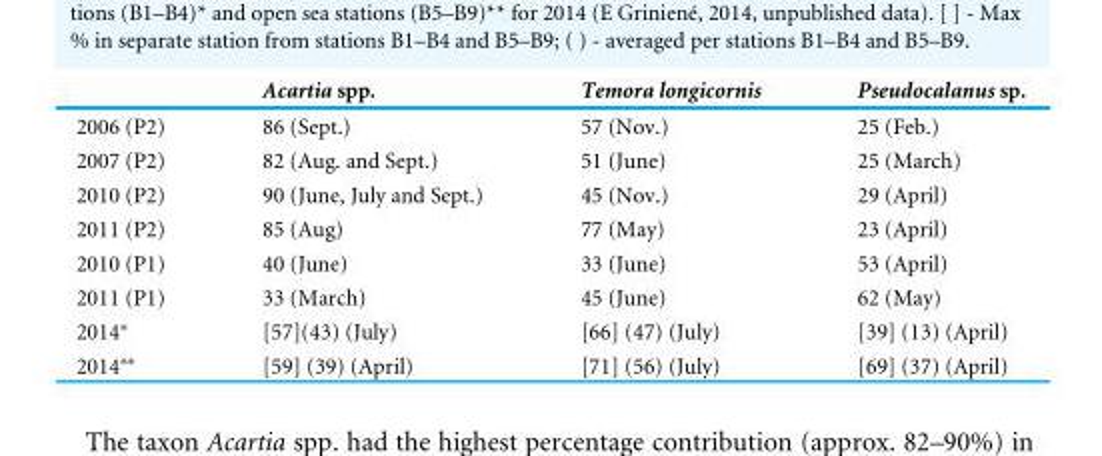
<table><thead><tr><td></td><td>Acartia spp.</td><td>Temora longicornis</td><td>Pseudocalanus sp.</td></tr></thead><tbody><tr><td>2006 (P2)</td><td>86 (Sept.)</td><td>57 (Nov.)</td><td>25 (Feb.)</td></tr><tr><td>2007 (P2)</td><td>82 (Aug. and Sept.)</td><td>51 (June)</td><td>25 (March)</td></tr><tr><td>2010 (P2)</td><td>90 (June, July and Sept.)</td><td>45 (Nov.)</td><td>29 (April)</td></tr><tr><td>2011 (P2)</td><td>85 (Aug)</td><td>77 (May)</td><td>23 (April)</td></tr><tr><td>2010 (P1)</td><td>40 (June)</td><td>33 (June)</td><td>53 (April)</td></tr><tr><td>2011 (P1)</td><td>33 (March)</td><td>45 (June)</td><td>62 (May)</td></tr><tr><td>2014∗</td><td>[57](43) (July)</td><td>[66] (47) (July)</td><td>[39] (13) (April)</td></tr><tr><td>2014∗∗</td><td>[59] (39) (April)</td><td>[71] (56) (July)</td><td>[69] (37) (April)</td></tr></tbody></table>